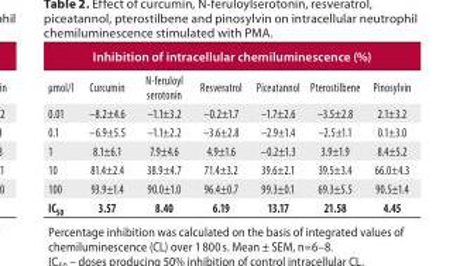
<table><thead><tr><td colspan="7">Inhibition of intracellular chemiluminescence (%)</td></tr><tr><td>μmol/l</td><td>Curcumin</td><td>N-feruloyl serotonin</td><td>Resveratrol</td><td>Piceatannol</td><td>Pterostilbene</td><td>Pinosylvin</td></tr></thead><tbody><tr><td>0.01</td><td>–8.2±4.6</td><td>–1.1±3.2</td><td>–0.2±1.7</td><td>–1.7±2.6</td><td>–3.5±2.8</td><td>2.1±3.2</td></tr><tr><td>0.1</td><td>–6.9±5.5</td><td>–1.1±2.2</td><td>–3.6±2.8</td><td>–2.9±1.4</td><td>–2.5±1.1</td><td>0.1±3.0</td></tr><tr><td>1</td><td>8.1±6.1</td><td>7.9±4.6</td><td>4.9±1.6</td><td>–0.2±1.3</td><td>3.9±1.9</td><td>8.4±5.2</td></tr><tr><td>10</td><td>81.4±2.4</td><td>38.9±4.7</td><td>71.4±3.2</td><td>39.6±2.1</td><td>39.5±3.4</td><td>66.0±4.3</td></tr><tr><td>100</td><td>93.9±1.4</td><td>90.0±1.0</td><td>96.4±0.7</td><td>99.3±0.1</td><td>69.3±5.5</td><td>90.5±1.4</td></tr><tr><td>IC<sub>50</sub></td><td>3.57</td><td>8.40</td><td>6.19</td><td>13.17</td><td>21.58</td><td>4.45</td></tr></tbody></table>